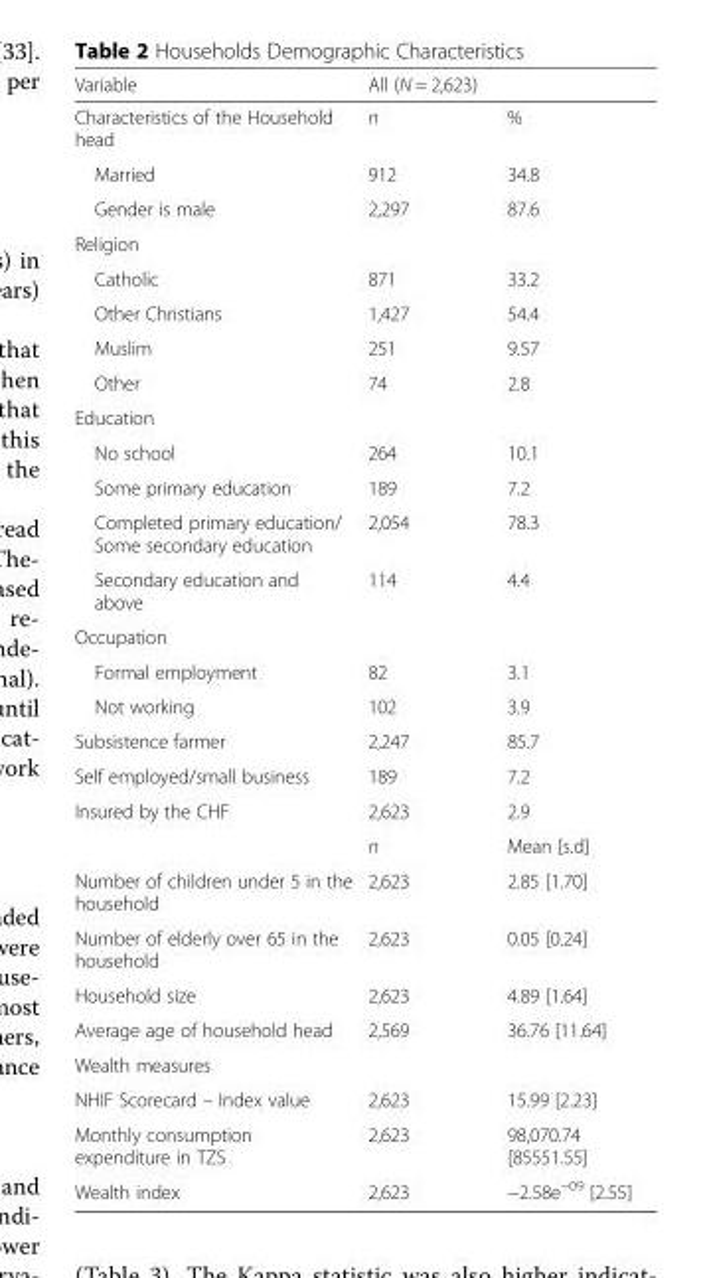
<table><thead><tr><td rowspan="2">Variable Characteristics of the Household head</td><td colspan="2">All (N = 2,623)</td></tr><tr><td>n</td><td>%</td></tr></thead><tbody><tr><td>Married</td><td>912</td><td>34.8</td></tr><tr><td>Gender is male</td><td>2,297</td><td>87.6</td></tr><tr><td colspan="3">Religion</td></tr><tr><td>Catholic</td><td>871</td><td>33.2</td></tr><tr><td>Other Christians</td><td>1,427</td><td>54.4</td></tr><tr><td>Muslim</td><td>251</td><td>9.57</td></tr><tr><td>Other</td><td>74</td><td>2.8</td></tr><tr><td colspan="3">Education</td></tr><tr><td>No school</td><td>264</td><td>10.1</td></tr><tr><td>Some primary education</td><td>189</td><td>7.2</td></tr><tr><td>Completed primary education/ Some secondary education</td><td>2,054</td><td>78.3</td></tr><tr><td>Secondary education and above</td><td>114</td><td>4.4</td></tr><tr><td colspan="3">Occupation</td></tr><tr><td>Formal employment</td><td>82</td><td>3.1</td></tr><tr><td>Not working</td><td>102</td><td>3.9</td></tr><tr><td>Subsistence farmer</td><td>2,247</td><td>85.7</td></tr><tr><td>Self employed/small business</td><td>189</td><td>7.2</td></tr><tr><td rowspan="2">Insured by the CHF</td><td>2,623</td><td>2.9</td></tr><tr><td>n</td><td>Mean [s.d]</td></tr><tr><td>Number of children under 5 in the household</td><td>2,623</td><td>2.85 [1.70]</td></tr><tr><td>Number of elderly over 65 in the household</td><td>2,623</td><td>0.05 [0.24]</td></tr><tr><td>Household size</td><td>2,623</td><td>4.89 [1.64]</td></tr><tr><td>Average age of household head</td><td>2,569</td><td>36.76 [11.64]</td></tr><tr><td colspan="3">Wealth measures</td></tr><tr><td>NHIF Scorecard – Index value</td><td>2,623</td><td>15.99 [2.23]</td></tr><tr><td>Monthly consumption expenditure in TZS</td><td>2,623</td><td>98,070.74 [85551.55]</td></tr><tr><td>Wealth index</td><td>2,623</td><td>−2.58e<sup>−09</sup> [2.55]</td></tr></tbody></table>